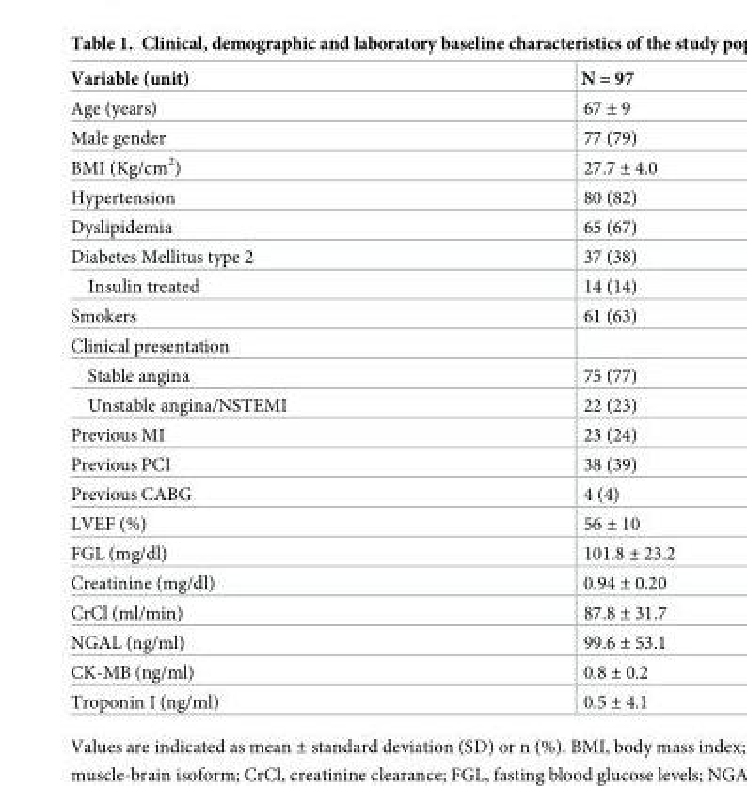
<table><thead><tr><td>Variable (unit)</td><td>N = 97</td></tr></thead><tbody><tr><td>Age (years)</td><td>67 ± 9</td></tr><tr><td>Male gender</td><td>77 (79)</td></tr><tr><td>BMI (Kg/cm<sup>2</sup>)</td><td>27.7 ± 4.0</td></tr><tr><td>Hypertension</td><td>80 (82)</td></tr><tr><td>Dyslipidemia</td><td>65 (67)</td></tr><tr><td>Diabetes Mellitus type 2</td><td>37 (38)</td></tr><tr><td>Insulin treated</td><td>14 (14)</td></tr><tr><td>Smokers</td><td>61 (63)</td></tr><tr><td colspan="2">Clinical presentation</td></tr><tr><td>Stable angina</td><td>75 (77)</td></tr><tr><td>Unstable angina/NSTEMI</td><td>22 (23)</td></tr><tr><td>Previous MI</td><td>23 (24)</td></tr><tr><td>Previous PCI</td><td>38 (39)</td></tr><tr><td>Previous CABG</td><td>4 (4)</td></tr><tr><td>LVEF (%)</td><td>56 ± 10</td></tr><tr><td>FGL (mg/dl)</td><td>101.8 ± 23.2</td></tr><tr><td>Creatinine (mg/dl)</td><td>0.94 ± 0.20</td></tr><tr><td>CrCl (ml/min)</td><td>87.8 ± 31.7</td></tr><tr><td>NGAL (ng/ml)</td><td>99.6 ± 53.1</td></tr><tr><td>CK-MB (ng/ml)</td><td>0.8 ± 0.2</td></tr><tr><td>Troponin I (ng/ml)</td><td>0.5 ± 4.1</td></tr></tbody></table>